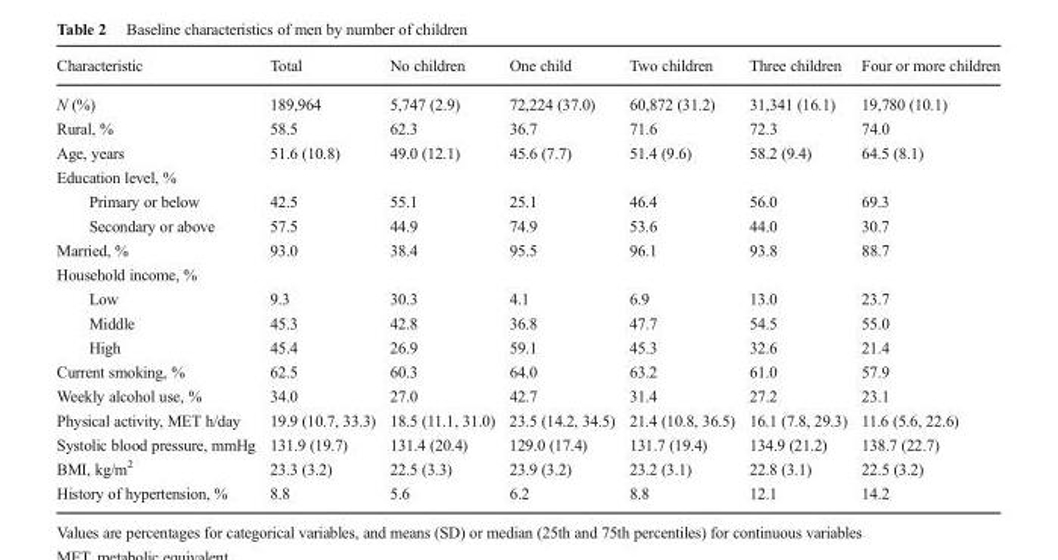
<table><thead><tr><td>Characteristic</td><td>Total</td><td>No children</td><td>One child</td><td>Two children</td><td>Three children</td><td>Four or more children</td></tr></thead><tbody><tr><td>N (%)</td><td>189,964</td><td>5,747 (2.9)</td><td>72,224 (37.0)</td><td>60,872 (31.2)</td><td>31,341 (16.1)</td><td>19,780 (10.1)</td></tr><tr><td>Rural, %</td><td>58.5</td><td>62.3</td><td>36.7</td><td>71.6</td><td>72.3</td><td>74.0</td></tr><tr><td>Age, years</td><td>51.6 (10.8)</td><td>49.0 (12.1)</td><td>45.6 (7.7)</td><td>51.4 (9.6)</td><td>58.2 (9.4)</td><td>64.5 (8.1)</td></tr><tr><td colspan="7">Education level, %</td></tr><tr><td>Primary or below</td><td>42.5</td><td>55.1</td><td>25.1</td><td>46.4</td><td>56.0</td><td>69.3</td></tr><tr><td>Secondary or above</td><td>57.5</td><td>44.9</td><td>74.9</td><td>53.6</td><td>44.0</td><td>30.7</td></tr><tr><td>Married, %</td><td>93.0</td><td>38.4</td><td>95.5</td><td>96.1</td><td>93.8</td><td>88.7</td></tr><tr><td colspan="7">Household income, %</td></tr><tr><td>Low</td><td>9.3</td><td>30.3</td><td>4.1</td><td>6.9</td><td>13.0</td><td>23.7</td></tr><tr><td>Middle</td><td>45.3</td><td>42.8</td><td>36.8</td><td>47.7</td><td>54.5</td><td>55.0</td></tr><tr><td>High</td><td>45.4</td><td>26.9</td><td>59.1</td><td>45.3</td><td>32.6</td><td>21.4</td></tr><tr><td>Current smoking, %</td><td>62.5</td><td>60.3</td><td>64.0</td><td>63.2</td><td>61.0</td><td>57.9</td></tr><tr><td>Weekly alcohol use, %</td><td>34.0</td><td>27.0</td><td>42.7</td><td>31.4</td><td>27.2</td><td>23.1</td></tr><tr><td>Physical activity, MET h/day</td><td>19.9 (10.7, 33.3)</td><td>18.5 (11.1, 31.0)</td><td>23.5 (14.2, 34.5)</td><td>21.4 (10.8, 36.5)</td><td>16.1 (7.8, 29.3)</td><td>11.6 (5.6, 22.6)</td></tr><tr><td>Systolic blood pressure, mmHg</td><td>131.9 (19.7)</td><td>131.4 (20.4)</td><td>129.0 (17.4)</td><td>131.7 (19.4)</td><td>134.9 (21.2)</td><td>138.7 (22.7)</td></tr><tr><td>BMI, kg/m<sup>2</sup></td><td>23.3 (3.2)</td><td>22.5 (3.3)</td><td>23.9 (3.2)</td><td>23.2 (3.1)</td><td>22.8 (3.1)</td><td>22.5 (3.2)</td></tr><tr><td>History of hypertension, %</td><td>8.8</td><td>5.6</td><td>6.2</td><td>8.8</td><td>12.1</td><td>14.2</td></tr></tbody></table>